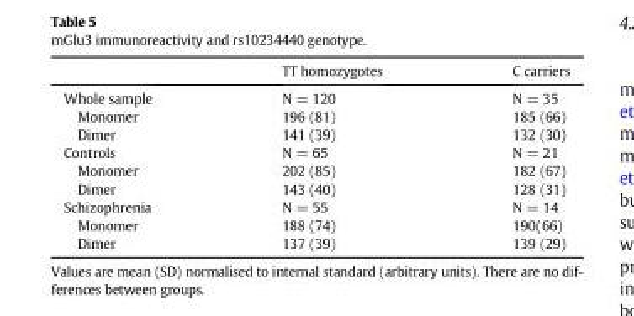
<table><thead><tr><td></td><td>TT homozygotes</td><td>C carriers</td></tr></thead><tbody><tr><td>Whole sample</td><td>N = 120</td><td>N = 35</td></tr><tr><td>Monomer</td><td>196 (81)</td><td>185 (66)</td></tr><tr><td>Dimer</td><td>141 (39)</td><td>132 (30)</td></tr><tr><td>Controls</td><td>N = 65</td><td>N = 21</td></tr><tr><td>Monomer</td><td>202 (85)</td><td>182 (67)</td></tr><tr><td>Dimer</td><td>143 (40)</td><td>128 (31)</td></tr><tr><td>Schizophrenia</td><td>N = 55</td><td>N = 14</td></tr><tr><td>Monomer</td><td>188 (74)</td><td>190(66)</td></tr><tr><td>Dimer</td><td>137 (39)</td><td>139 (29)</td></tr></tbody></table>